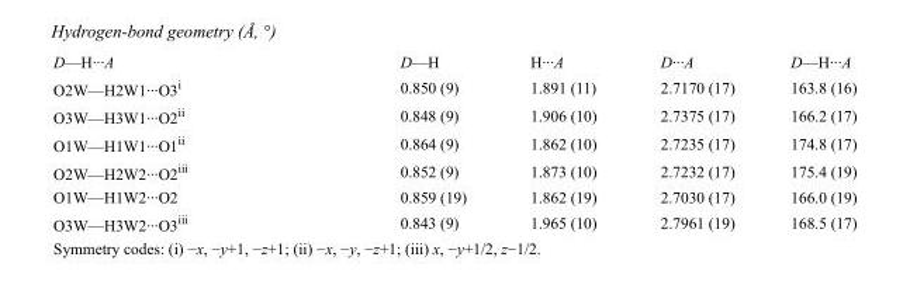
<table><tbody><tr><td>D—H···A</td><td>D—H</td><td>H···A</td><td>D···A</td><td>D—H···A</td></tr><tr><td>O2W—H2W1···O3<sup>i</sup></td><td>0.850 (9)</td><td>1.891 (11)</td><td>2.7170 (17)</td><td>163.8 (16)</td></tr><tr><td>O3W—H3W1···O2<sup>ii</sup></td><td>0.848 (9)</td><td>1.906 (10)</td><td>2.7375 (17)</td><td>166.2 (17)</td></tr><tr><td>O1W—H1W1···O1<sup>ii</sup></td><td>0.864 (9)</td><td>1.862 (10)</td><td>2.7235 (17)</td><td>174.8 (17)</td></tr><tr><td>O2W—H2W2···O2<sup>iii</sup></td><td>0.852 (9)</td><td>1.873 (10)</td><td>2.7232 (17)</td><td>175.4 (19)</td></tr><tr><td>O1W—H1W2···O2</td><td>0.859 (19)</td><td>1.862 (19)</td><td>2.7030 (17)</td><td>166.0 (19)</td></tr><tr><td>O3W—H3W2···O3<sup>iii</sup></td><td>0.843 (9)</td><td>1.965 (10)</td><td>2.7961 (19)</td><td>168.5 (17)</td></tr></tbody></table>